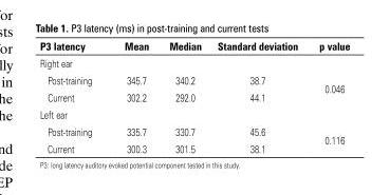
<table><thead><tr><td>P3 latency</td><td>Mean</td><td>Median</td><td>Standard deviation</td><td>p value</td></tr></thead><tbody><tr><td colspan="5">Right ear</td></tr><tr><td>Post-training</td><td>345.7</td><td>340.2</td><td>38.7</td><td rowspan="2">0.046</td></tr><tr><td>Current</td><td>302.2</td><td>292.0</td><td>44.1</td></tr><tr><td colspan="5">Left ear</td></tr><tr><td>Post-training</td><td>335.7</td><td>330.7</td><td>45.6</td><td rowspan="2">0.116</td></tr><tr><td>Current</td><td>300.3</td><td>301.5</td><td>38.1</td></tr></tbody></table>